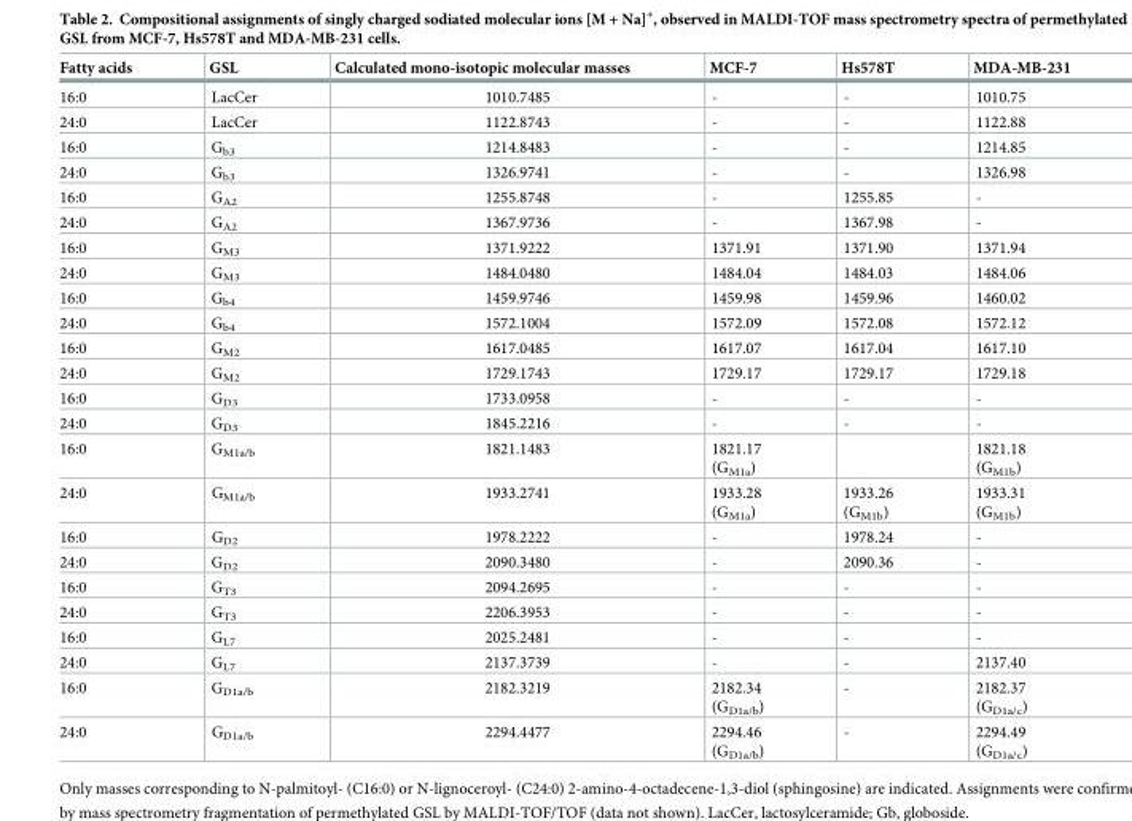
<table><thead><tr><td>Fatty acids</td><td>GSL</td><td>Calculated mono-isotopic molecular masses</td><td>MCF-7</td><td>Hs578T</td><td>MDA-MB-231</td></tr></thead><tbody><tr><td>16:0</td><td>LacCer</td><td>1010.7485</td><td>-</td><td>-</td><td>1010.75</td></tr><tr><td>24:0</td><td>LacCer</td><td>1122.8743</td><td>-</td><td>-</td><td>1122.88</td></tr><tr><td>16:0</td><td>G<sub>b3</sub></td><td>1214.8483</td><td>-</td><td>-</td><td>1214.85</td></tr><tr><td>24:0</td><td>G<sub>b3</sub></td><td>1326.9741</td><td>-</td><td>-</td><td>1326.98</td></tr><tr><td>16:0</td><td>G<sub>A2</sub></td><td>1255.8748</td><td>-</td><td>1255.85</td><td>-</td></tr><tr><td>24:0</td><td>G<sub>A2</sub></td><td>1367.9736</td><td>-</td><td>1367.98</td><td>-</td></tr><tr><td>16:0</td><td>G<sub>M3</sub></td><td>1371.9222</td><td>1371.91</td><td>1371.90</td><td>1371.94</td></tr><tr><td>24:0</td><td>G<sub>M3</sub></td><td>1484.0480</td><td>1484.04</td><td>1484.03</td><td>1484.06</td></tr><tr><td>16:0</td><td>G<sub>b4</sub></td><td>1459.9746</td><td>1459.98</td><td>1459.96</td><td>1460.02</td></tr><tr><td>24:0</td><td>G<sub>b4</sub></td><td>1572.1004</td><td>1572.09</td><td>1572.08</td><td>1572.12</td></tr><tr><td>16:0</td><td>G<sub>M2</sub></td><td>1617.0485</td><td>1617.07</td><td>1617.04</td><td>1617.10</td></tr><tr><td>24:0</td><td>G<sub>M2</sub></td><td>1729.1743</td><td>1729.17</td><td>1729.17</td><td>1729.18</td></tr><tr><td>16:0</td><td>G<sub>D3</sub></td><td>1733.0958</td><td>-</td><td>-</td><td>-</td></tr><tr><td>24:0</td><td>G<sub>D3</sub></td><td>1845.2216</td><td>-</td><td>-</td><td>-</td></tr><tr><td>16:0</td><td>G<sub>M1a/b</sub></td><td>1821.1483</td><td>1821.17 (G<sub>M1a</sub>)</td><td></td><td>1821.18 (G<sub>M1b</sub>)</td></tr><tr><td>24:0</td><td>G<sub>M1a/b</sub></td><td>1933.2741</td><td>1933.28 (G<sub>M1a</sub>)</td><td>1933.26 (G<sub>M1b</sub>)</td><td>1933.31 (G<sub>M1b</sub>)</td></tr><tr><td>16:0</td><td>G<sub>D2</sub></td><td>1978.2222</td><td>-</td><td>1978.24</td><td>-</td></tr><tr><td>24:0</td><td>G<sub>D2</sub></td><td>2090.3480</td><td>-</td><td>2090.36</td><td>-</td></tr><tr><td>16:0</td><td>G<sub>T3</sub></td><td>2094.2695</td><td>-</td><td>-</td><td>-</td></tr><tr><td>24:0</td><td>G<sub>T3</sub></td><td>2206.3953</td><td>-</td><td>-</td><td>-</td></tr><tr><td>16:0</td><td>G<sub>L7</sub></td><td>2025.2481</td><td>-</td><td>-</td><td>-</td></tr><tr><td>24:0</td><td>G<sub>L7</sub></td><td>2137.3739</td><td>-</td><td>-</td><td>2137.40</td></tr><tr><td>16:0</td><td>G<sub>D1a/b</sub></td><td>2182.3219</td><td>2182.34 (G<sub>D1a/b</sub>)</td><td>-</td><td>2182.37 (G<sub>D1a/c</sub>)</td></tr><tr><td>24:0</td><td>G<sub>D1a/b</sub></td><td>2294.4477</td><td>2294.46 (G<sub>D1a/b</sub>)</td><td>-</td><td>2294.49 (G<sub>D1a/c</sub>)</td></tr></tbody></table>